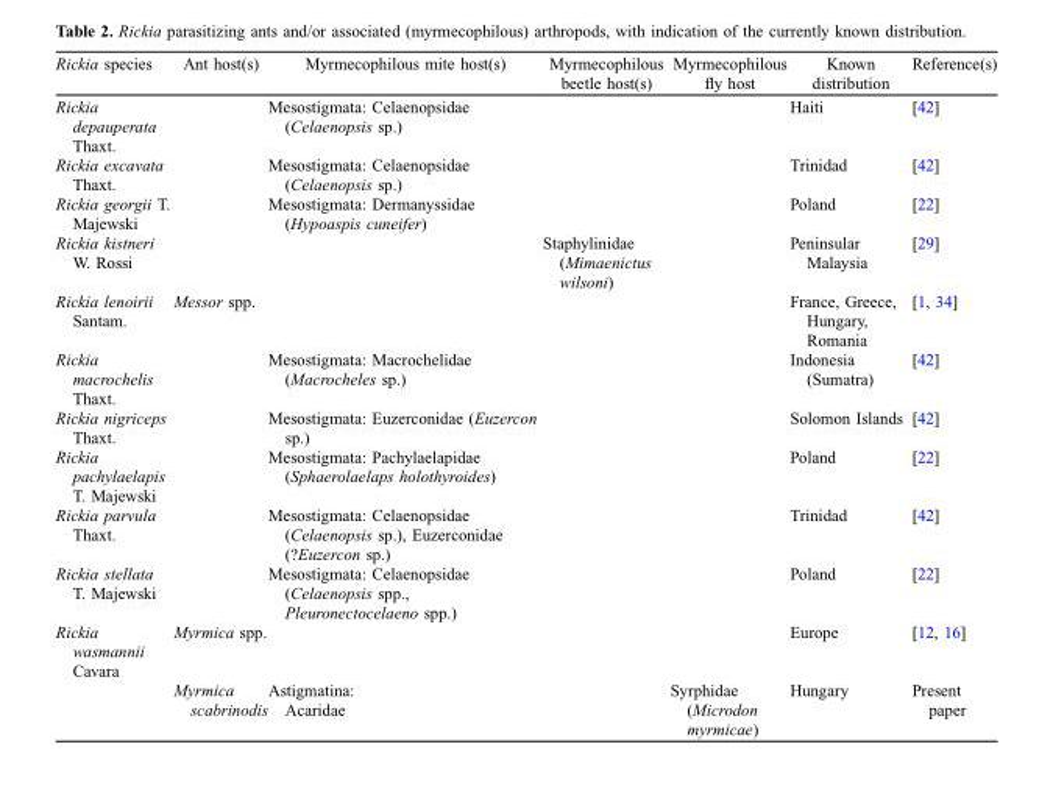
<table><thead><tr><td>Rickia species</td><td>Ant host(s)</td><td>Myrmecophilous mite host(s)</td><td>Myrmecophilous beetle host(s)</td><td>Myrmecophilous fly host</td><td>Known distribution</td><td>Reference(s)</td></tr></thead><tbody><tr><td>Rickia depauperata Thaxt.</td><td></td><td>Mesostigmata: Celaenopsidae (Celaenopsis sp.)</td><td></td><td></td><td>Haiti</td><td>[42]</td></tr><tr><td>Rickia excavata Thaxt.</td><td></td><td>Mesostigmata: Celaenopsidae (Celaenopsis sp.)</td><td></td><td></td><td>Trinidad</td><td>[42]</td></tr><tr><td>Rickia georgii T. Majewski</td><td></td><td>Mesostigmata: Dermanyssidae (Hypoaspis cuneifer)</td><td></td><td></td><td>Poland</td><td>[22]</td></tr><tr><td>Rickia kistneri W. Rossi</td><td></td><td></td><td>Staphylinidae (Mimaenictus wilsoni)</td><td></td><td>Peninsular Malaysia</td><td>[29]</td></tr><tr><td>Rickia lenoirii Santam.</td><td>Messor spp.</td><td></td><td></td><td></td><td>France, Greece, Hungary, Romania</td><td>[1, 34]</td></tr><tr><td>Rickia macrochelis Thaxt.</td><td></td><td>Mesostigmata: Macrochelidae (Macrocheles sp.)</td><td></td><td></td><td>Indonesia (Sumatra)</td><td>[42]</td></tr><tr><td>Rickia nigriceps Thaxt.</td><td></td><td>Mesostigmata: Euzerconidae (Euzercon sp.)</td><td></td><td></td><td>Solomon Islands</td><td>[42]</td></tr><tr><td>Rickia pachylaelapis T. Majewski</td><td></td><td>Mesostigmata: Pachylaelapidae (Sphaerolaelaps holothyroides)</td><td></td><td></td><td>Poland</td><td>[22]</td></tr><tr><td>Rickia parvula Thaxt.</td><td></td><td>Mesostigmata: Celaenopsidae (Celaenopsis sp.), Euzerconidae (?Euzercon sp.)</td><td></td><td></td><td>Trinidad</td><td>[42]</td></tr><tr><td>Rickia stellata T. Majewski</td><td></td><td>Mesostigmata: Celaenopsidae (Celaenopsis spp., Pleuronectocelaeno spp.)</td><td></td><td></td><td>Poland</td><td>[22]</td></tr><tr><td rowspan="2">Rickia wasmannii Cavara</td><td>Myrmica spp.</td><td></td><td></td><td></td><td>Europe</td><td>[12, 16]</td></tr><tr><td>Myrmica scabrinodis</td><td>Astigmatina: Acaridae</td><td></td><td>Syrphidae (Microdon myrmicae)</td><td>Hungary</td><td>Present paper</td></tr></tbody></table>